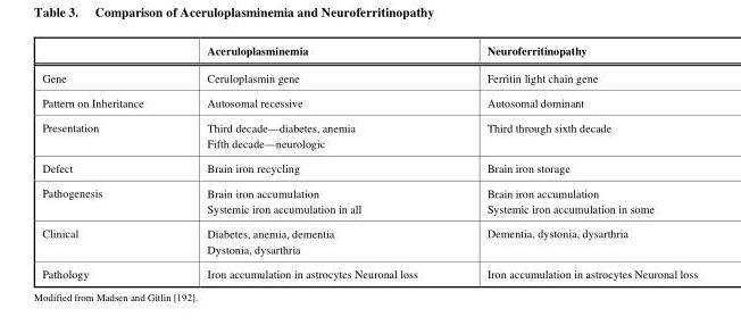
<table><thead><tr><td></td><td>Aceruloplasminemia</td><td>Neuroferritinopathy</td></tr></thead><tbody><tr><td>Gene</td><td>Ceruloplasmin gene</td><td>Ferritin light chain gene</td></tr><tr><td>Pattern on Inheritance</td><td>Autosomal recessive</td><td>Autosomal dominant</td></tr><tr><td>Presentation</td><td>Third decade—diabetes, anemia Fifth decade—neurologic</td><td>Third through sixth decade</td></tr><tr><td>Defect</td><td>Brain iron recycling</td><td>Brain iron storage</td></tr><tr><td>Pathogenesis</td><td>Brain iron accumulation Systemic iron accumulation in all</td><td>Brain iron accumulation Systemic iron accumulation in some</td></tr><tr><td>Clinical</td><td>Diabetes, anemia, dementia Dystonia, dysarthria</td><td>Dementia, dystonia, dysarthria</td></tr><tr><td>Pathology</td><td>Iron accumulation in astrocytes Neuronal loss</td><td>Iron accumulation in astrocytes Neuronal loss</td></tr></tbody></table>